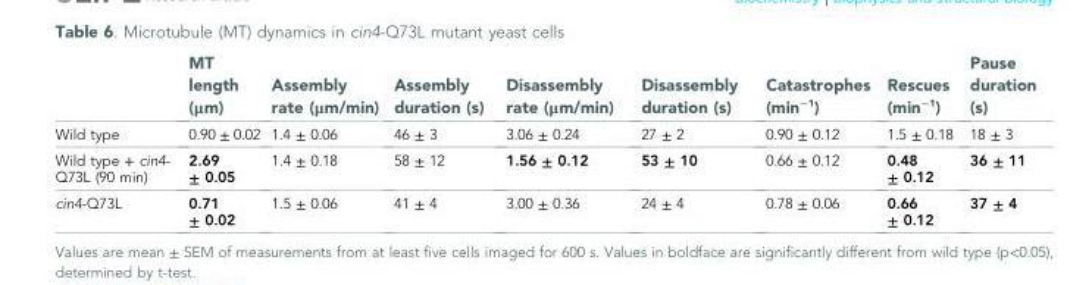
<table><thead><tr><td></td><td>MT length (μm)</td><td>Assembly rate (μm/min)</td><td>Assembly duration (s)</td><td>Disassembly rate (μm/min)</td><td>Disassembly duration (s)</td><td>Catastrophes (min<sup>−1</sup>)</td><td>Rescues (min<sup>−1</sup>)</td><td>Pause duration (s)</td></tr></thead><tbody><tr><td>Wild type</td><td>0.90 ± 0.02</td><td>1.4 ± 0.06</td><td>46 ± 3</td><td>3.06 ± 0.24</td><td>27 ± 2</td><td>0.90 ± 0.12</td><td>1.5 ± 0.18</td><td>18 ± 3</td></tr><tr><td>Wild type + cin4- Q73L (90 min)</td><td>2.69 ± 0.05</td><td>1.4 ± 0.18</td><td>58 ± 12</td><td>1.56 ± 0.12</td><td>53 ± 10</td><td>0.66 ± 0.12</td><td>0.48 ± 0.12</td><td>36 ± 11</td></tr><tr><td>cin4-Q73L</td><td>0.71 ± 0.02</td><td>1.5 ± 0.06</td><td>41 ± 4</td><td>3.00 ± 0.36</td><td>24 ± 4</td><td>0.78 ± 0.06</td><td>0.66 ± 0.12</td><td>37 ± 4</td></tr></tbody></table>